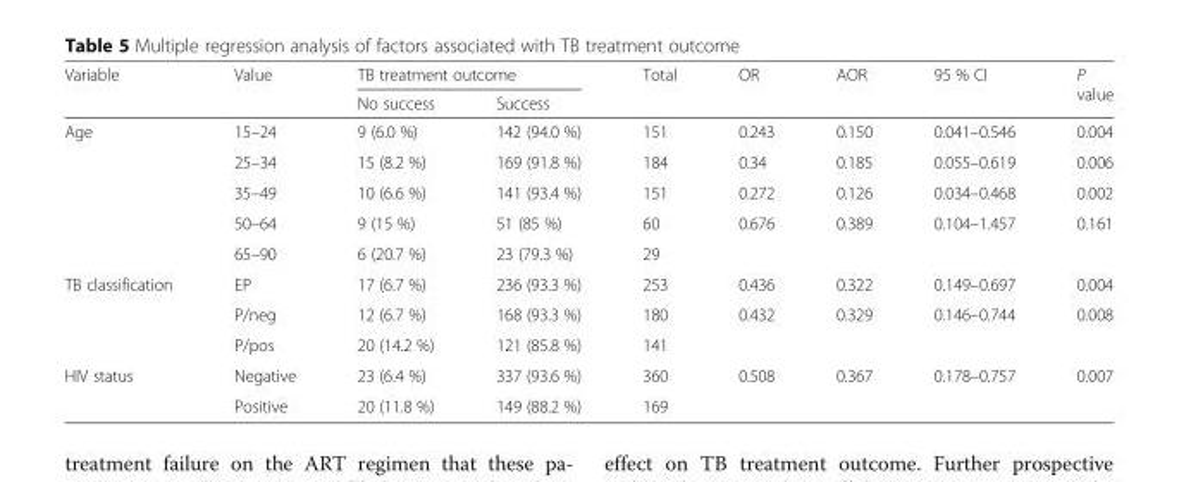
<table><thead><tr><td rowspan="2">Variable</td><td rowspan="2">Value</td><td colspan="2">TB treatment outcome</td><td rowspan="2">Total</td><td rowspan="2">OR</td><td rowspan="2">AOR</td><td rowspan="2">95 % CI</td><td rowspan="2">P value</td></tr><tr><td>No success</td><td>Success</td></tr></thead><tbody><tr><td rowspan="5">Age</td><td>15–24</td><td>9 (6.0 %)</td><td>142 (94.0 %)</td><td>151</td><td>0.243</td><td>0.150</td><td>0.041–0.546</td><td>0.004</td></tr><tr><td>25–34</td><td>15 (8.2 %)</td><td>169 (91.8 %)</td><td>184</td><td>0.34</td><td>0.185</td><td>0.055–0.619</td><td>0.006</td></tr><tr><td>35–49</td><td>10 (6.6 %)</td><td>141 (93.4 %)</td><td>151</td><td>0.272</td><td>0.126</td><td>0.034–0.468</td><td>0.002</td></tr><tr><td>50–64</td><td>9 (15 %)</td><td>51 (85 %)</td><td>60</td><td>0.676</td><td>0.389</td><td>0.104–1.457</td><td>0.161</td></tr><tr><td>65–90</td><td>6 (20.7 %)</td><td>23 (79.3 %)</td><td>29</td><td></td><td></td><td></td><td></td></tr><tr><td rowspan="3">TB classification</td><td>EP</td><td>17 (6.7 %)</td><td>236 (93.3 %)</td><td>253</td><td>0.436</td><td>0.322</td><td>0.149–0.697</td><td>0.004</td></tr><tr><td>P/neg</td><td>12 (6.7 %)</td><td>168 (93.3 %)</td><td>180</td><td>0.432</td><td>0.329</td><td>0.146–0.744</td><td>0.008</td></tr><tr><td>P/pos</td><td>20 (14.2 %)</td><td>121 (85.8 %)</td><td>141</td><td></td><td></td><td></td><td></td></tr><tr><td rowspan="2">HIV status</td><td>Negative</td><td>23 (6.4 %)</td><td>337 (93.6 %)</td><td>360</td><td>0.508</td><td>0.367</td><td>0.178–0.757</td><td>0.007</td></tr><tr><td>Positive</td><td>20 (11.8 %)</td><td>149 (88.2 %)</td><td>169</td><td></td><td></td><td></td><td></td></tr></tbody></table>